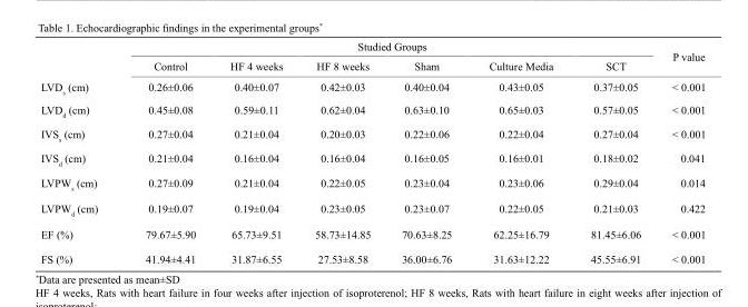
<table><thead><tr><td rowspan="2"></td><td colspan="6">Studied Groups</td><td rowspan="2">P value</td></tr><tr><td>Control</td><td>HF 4 weeks</td><td>HF 8 weeks</td><td>Sham</td><td>Culture Media</td><td>SCT</td></tr></thead><tbody><tr><td>LVDs (cm)</td><td>0.26±0.06</td><td>0.40±0.07</td><td>0.42±0.03</td><td>0.40±0.04</td><td>0.43±0.05</td><td>0.37±0.05</td><td>&lt; 0.001</td></tr><tr><td>LVDd (cm)</td><td>0.45±0.08</td><td>0.59±0.11</td><td>0.62±0.04</td><td>0.63±0.10</td><td>0.65±0.03</td><td>0.57±0.05</td><td>&lt; 0.001</td></tr><tr><td>IVSs (cm)</td><td>0.27±0.04</td><td>0.21±0.04</td><td>0.20±0.03</td><td>0.22±0.06</td><td>0.22±0.04</td><td>0.27±0.04</td><td>&lt; 0.001</td></tr><tr><td>IVSd (cm)</td><td>0.21±0.04</td><td>0.16±0.04</td><td>0.16±0.04</td><td>0.16±0.05</td><td>0.16±0.01</td><td>0.18±0.02</td><td>0.041</td></tr><tr><td>LVPWs (cm)</td><td>0.27±0.09</td><td>0.21±0.04</td><td>0.22±0.05</td><td>0.23±0.04</td><td>0.23±0.06</td><td>0.29±0.04</td><td>0.014</td></tr><tr><td>LVPWd (cm)</td><td>0.19±0.07</td><td>0.19±0.04</td><td>0.23±0.05</td><td>0.23±0.07</td><td>0.22±0.05</td><td>0.21±0.03</td><td>0.422</td></tr><tr><td>EF (%)</td><td>79.67±5.90</td><td>65.73±9.51</td><td>58.73±14.85</td><td>70.63±8.25</td><td>62.25±16.79</td><td>81.45±6.06</td><td>&lt; 0.001</td></tr><tr><td>FS (%)</td><td>41.94±4.41</td><td>31.87±6.55</td><td>27.53±8.58</td><td>36.00±6.76</td><td>31.63±12.22</td><td>45.55±6.91</td><td>&lt; 0.001</td></tr></tbody></table>